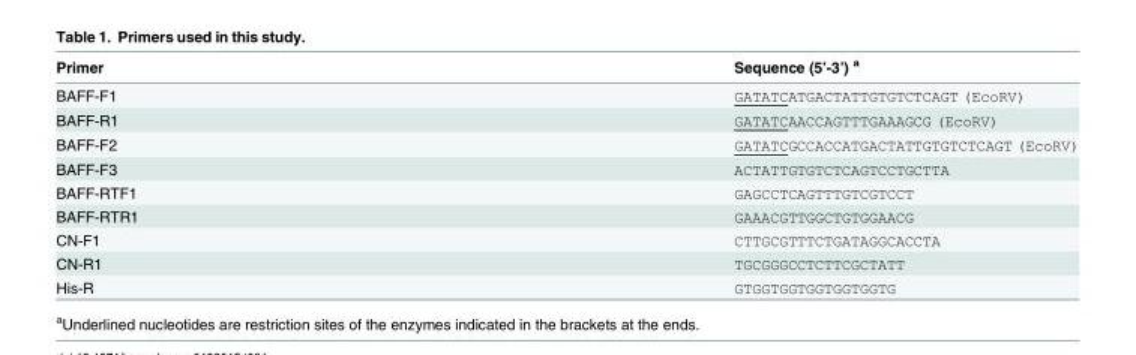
<table><thead><tr><td>Primer</td><td>Sequence (5’-3’) <sup>a</sup></td></tr></thead><tbody><tr><td>BAFF-F1</td><td>GATATCATGACTATTGTGTCTCAGT (EcoRV)</td></tr><tr><td>BAFF-R1</td><td>GATATCAACCAGTTTGAAAGCG (EcoRV)</td></tr><tr><td>BAFF-F2</td><td>GATATCGCCACCATGACTATTGTGTCTCAGT (EcoRV)</td></tr><tr><td>BAFF-F3</td><td>ACTATTGTGTCTCAGTCCTGCTTA</td></tr><tr><td>BAFF-RTF1</td><td>GAGCCTCAGTTTGTCGTCCT</td></tr><tr><td>BAFF-RTR1</td><td>GAAACGTTGGCTGTGGAACG</td></tr><tr><td>CN-F1</td><td>CTTGCGTTTCTGATAGGCACCTA</td></tr><tr><td>CN-R1</td><td>TGCGGGCCTCTTCGCTATT</td></tr><tr><td>His-R</td><td>GTGGTGGTGGTGGTGGTG</td></tr></tbody></table>